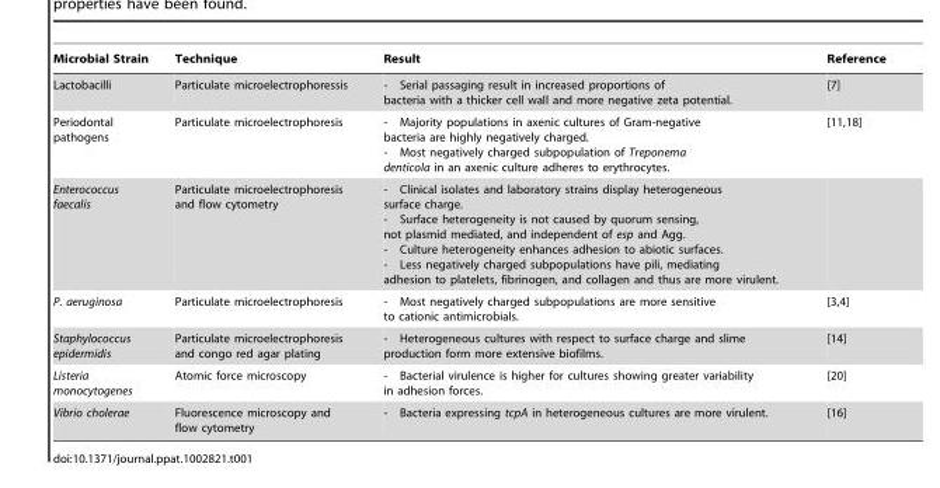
<table><thead><tr><td>Microbial Strain</td><td>Technique</td><td>Result</td><td>Reference</td></tr></thead><tbody><tr><td>Lactobacilli</td><td>Particulate microelectrophoressis</td><td>- Serial passaging result in increased proportions of bacteria with a thicker cell wall and more negative zeta potential.</td><td>[7]</td></tr><tr><td>Periodontal pathogens</td><td>Particulate microelectrophoresis</td><td>- Majority populations in axenic cultures of Gram-negative bacteria are highly negatively charged. - Most negatively charged subpopulation of Treponema denticola in an axenic culture adheres to erythrocytes.</td><td>[11,18]</td></tr><tr><td>Enterococcus faecalis</td><td>Particulate microelectrophoresis and flow cytometry</td><td>- Clinical isolates and laboratory strains display heterogeneous surface charge. - Surface heterogeneity is not caused by quorum sensing, not plasmid mediated, and independent of esp and Agg. - Culture heterogeneity enhances adhesion to abiotic surfaces. - Less negatively charged subpopulations have pili, mediating adhesion to platelets, fibrinogen, and collagen and thus are more virulent.</td><td></td></tr><tr><td>P. aeruginosa</td><td>Particulate microelectrophoresis</td><td>- Most negatively charged subpopulations are more sensitive to cationic antimicrobials.</td><td>[3,4]</td></tr><tr><td>Staphylococcus epidermidis</td><td>Particulate microelectrophoresis and congo red agar plating</td><td>- Heterogeneous cultures with respect to surface charge and slime production form more extensive biofilms.</td><td>[14]</td></tr><tr><td>Listeria monocytogenes</td><td>Atomic force microscopy</td><td>- Bacterial virulence is higher for cultures showing greater variability in adhesion forces.</td><td>[20]</td></tr><tr><td>Vibrio cholerae</td><td>Fluorescence microscopy and flow cytometry</td><td>- Bacteria expressing tcpA in heterogeneous cultures are more virulent.</td><td>[16]</td></tr></tbody></table>